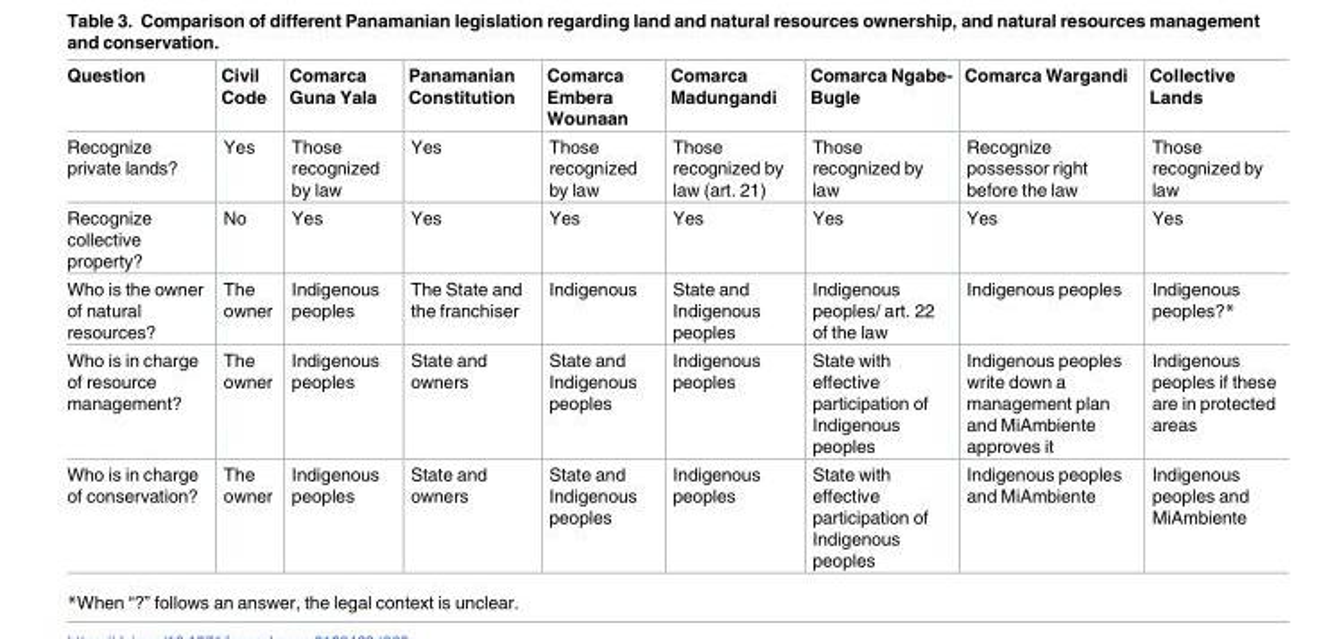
<table><thead><tr><td>Question</td><td>Civil Code</td><td>Comarca Guna Yala</td><td>Panamanian Constitution</td><td>Comarca Embera Wounaan</td><td>Comarca Madungandi</td><td>Comarca Ngabe- Bugle</td><td>Comarca Wargandi</td><td>Collective Lands</td></tr></thead><tbody><tr><td>Recognize private lands?</td><td>Yes</td><td>Those recognized by law</td><td>Yes</td><td>Those recognized by law</td><td>Those recognized by law (art. 21)</td><td>Those recognized by law</td><td>Recognize possessor right before the law</td><td>Those recognized by law</td></tr><tr><td>Recognize collective property?</td><td>No</td><td>Yes</td><td>Yes</td><td>Yes</td><td>Yes</td><td>Yes</td><td>Yes</td><td>Yes</td></tr><tr><td>Who is the owner of natural resources?</td><td>The owner</td><td>Indigenous peoples</td><td>The State and the franchiser</td><td>Indigenous</td><td>State and Indigenous peoples</td><td>Indigenous peoples/ art. 22 of the law</td><td>Indigenous peoples</td><td>Indigenous peoples?*</td></tr><tr><td>Who is in charge of resource management?</td><td>The owner</td><td>Indigenous peoples</td><td>State and owners</td><td>State and Indigenous peoples</td><td>Indigenous peoples</td><td>State with effective participation of Indigenous peoples</td><td>Indigenous peoples write down a management plan and MiAmbiente approves it</td><td>Indigenous peoples if these are in protected areas</td></tr><tr><td>Who is in charge of conservation?</td><td>The owner</td><td>Indigenous peoples</td><td>State and owners</td><td>State and Indigenous peoples</td><td>Indigenous peoples</td><td>State with effective participation of Indigenous peoples</td><td>Indigenous peoples and MiAmbiente</td><td>Indigenous peoples and MiAmbiente</td></tr></tbody></table>